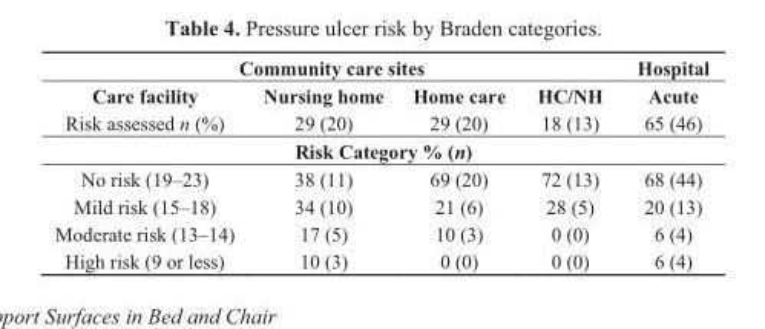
<table><thead><tr><td colspan="4">Community care sites</td><td rowspan="2">Hospital Acute</td></tr><tr><td>Care facility</td><td>Nursing home</td><td>Home care</td><td>HC/NH</td></tr></thead><tbody><tr><td>Risk assessed n (%)</td><td>29 (20)</td><td>29 (20)</td><td>18 (13)</td><td>65 (46)</td></tr><tr><td colspan="5">Risk Category % (n)</td></tr><tr><td>No risk (19–23)</td><td>38 (11)</td><td>69 (20)</td><td>72 (13)</td><td>68 (44)</td></tr><tr><td>Mild risk (15–18)</td><td>34 (10)</td><td>21 (6)</td><td>28 (5)</td><td>20 (13)</td></tr><tr><td>Moderate risk (13–14)</td><td>17 (5)</td><td>10 (3)</td><td>0 (0)</td><td>6 (4)</td></tr><tr><td>High risk (9 or less)</td><td>10 (3)</td><td>0 (0)</td><td>0 (0)</td><td>6 (4)</td></tr></tbody></table>